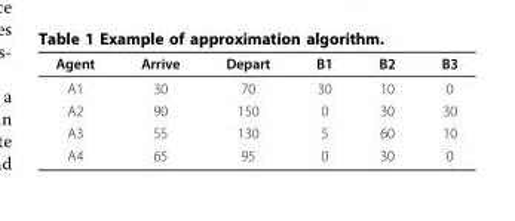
<table><thead><tr><td>Agent</td><td>Arrive</td><td>Depart</td><td>B1</td><td>B2</td><td>B3</td></tr></thead><tbody><tr><td>A1</td><td>30</td><td>70</td><td>30</td><td>10</td><td>0</td></tr><tr><td>A2</td><td>90</td><td>150</td><td>0</td><td>30</td><td>30</td></tr><tr><td>A3</td><td>55</td><td>130</td><td>5</td><td>60</td><td>10</td></tr><tr><td>A4</td><td>65</td><td>95</td><td>0</td><td>30</td><td>0</td></tr></tbody></table>